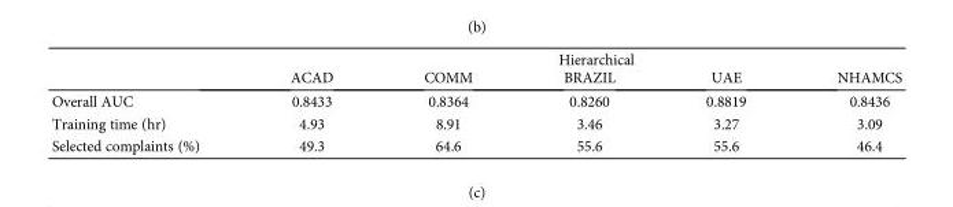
<table><thead><tr><td rowspan="2"></td><td colspan="5">Hierarchical</td></tr><tr><td>ACAD</td><td>COMM</td><td>BRAZIL</td><td>UAE</td><td>NHAMCS</td></tr></thead><tbody><tr><td>Overall AUC</td><td>0.8433</td><td>0.8364</td><td>0.8260</td><td>0.8819</td><td>0.8436</td></tr><tr><td>Training time (hr)</td><td>4.93</td><td>8.91</td><td>3.46</td><td>3.27</td><td>3.09</td></tr><tr><td>Selected complaints (%)</td><td>49.3</td><td>64.6</td><td>55.6</td><td>55.6</td><td>46.4</td></tr></tbody></table>